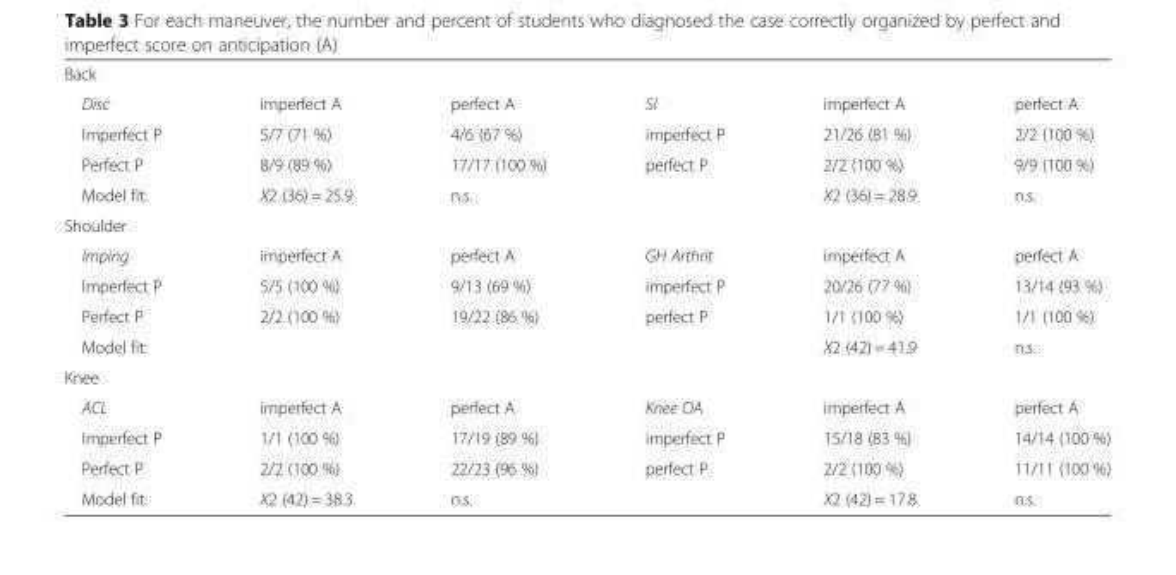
<table><tbody><tr><td colspan="6">Back</td></tr><tr><td>Disc</td><td>imperfect A</td><td>perfect A</td><td>SI</td><td>imperfect A</td><td>perfect A</td></tr><tr><td>Imperfect P</td><td>5/7 (71 %)</td><td>4/6 (67 %)</td><td>imperfect P</td><td>21/26 (81 %)</td><td>2/2 (100 %)</td></tr><tr><td>Perfect P</td><td>8/9 (89 %)</td><td>17/17 (100 %)</td><td>perfect P</td><td>2/2 (100 %)</td><td>9/9 (100 %)</td></tr><tr><td>Model fit:</td><td>X2 (36) = 25.9</td><td>n.s.</td><td></td><td>X2 (36) = 28.9</td><td>n.s.</td></tr><tr><td colspan="6">Shoulder</td></tr><tr><td>Imping</td><td>imperfect A</td><td>perfect A</td><td>GH Arthrit</td><td>imperfect A</td><td>perfect A</td></tr><tr><td>Imperfect P</td><td>5/5 (100 %)</td><td>9/13 (69 %)</td><td>imperfect P</td><td>20/26 (77 %)</td><td>13/14 (93 %)</td></tr><tr><td>Perfect P</td><td>2/2 (100 %)</td><td>19/22 (86 %)</td><td>perfect P</td><td>1/1 (100 %)</td><td>1/1 (100 %)</td></tr><tr><td>Model fit:</td><td></td><td></td><td></td><td>X2 (42) = 41.9</td><td>n.s.</td></tr><tr><td colspan="6">Knee</td></tr><tr><td>ACL</td><td>imperfect A</td><td>perfect A</td><td>Knee OA</td><td>imperfect A</td><td>perfect A</td></tr><tr><td>Imperfect P</td><td>1/1 (100 %)</td><td>17/19 (89 %)</td><td>imperfect P</td><td>15/18 (83 %)</td><td>14/14 (100 %)</td></tr><tr><td>Perfect P</td><td>2/2 (100 %)</td><td>22/23 (96 %)</td><td>perfect P</td><td>2/2 (100 %)</td><td>11/11 (100 %)</td></tr><tr><td>Model fit:</td><td>X2 (42) = 38.3</td><td>n.s.</td><td></td><td>X2 (42) = 17.8</td><td>n.s.</td></tr></tbody></table>